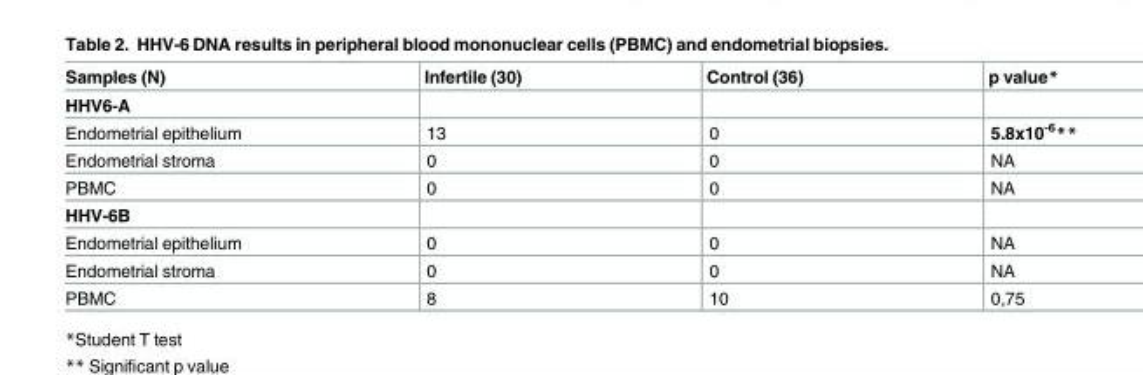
<table><thead><tr><td>Samples (N)</td><td>Infertile (30)</td><td>Control (36)</td><td>p value*</td></tr></thead><tbody><tr><td colspan="4">HHV6-A</td></tr><tr><td>Endometrial epithelium</td><td>13</td><td>0</td><td>5.8x10<sup>-6</sup>**</td></tr><tr><td>Endometrial stroma</td><td>0</td><td>0</td><td>NA</td></tr><tr><td>PBMC</td><td>0</td><td>0</td><td>NA</td></tr><tr><td colspan="4">HHV-6B</td></tr><tr><td>Endometrial epithelium</td><td>0</td><td>0</td><td>NA</td></tr><tr><td>Endometrial stroma</td><td>0</td><td>0</td><td>NA</td></tr><tr><td>PBMC</td><td>8</td><td>10</td><td>0,75</td></tr></tbody></table>